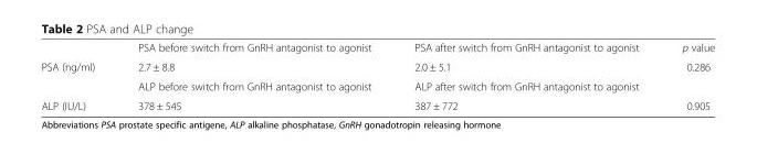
<table><thead><tr><td></td><td>PSA before switch from GnRH antagonist to agonist</td><td>PSA after switch from GnRH antagonist to agonist</td><td>p value</td></tr></thead><tbody><tr><td rowspan="2">PSA (ng/ml)</td><td>2.7 ± 8.8</td><td>2.0 ± 5.1</td><td>0.286</td></tr><tr><td>ALP before switch from GnRH antagonist to agonist</td><td>ALP after switch from GnRH antagonist to agonist</td><td></td></tr><tr><td>ALP (IU/L)</td><td>378 ± 545</td><td>387 ± 772</td><td>0.905</td></tr></tbody></table>